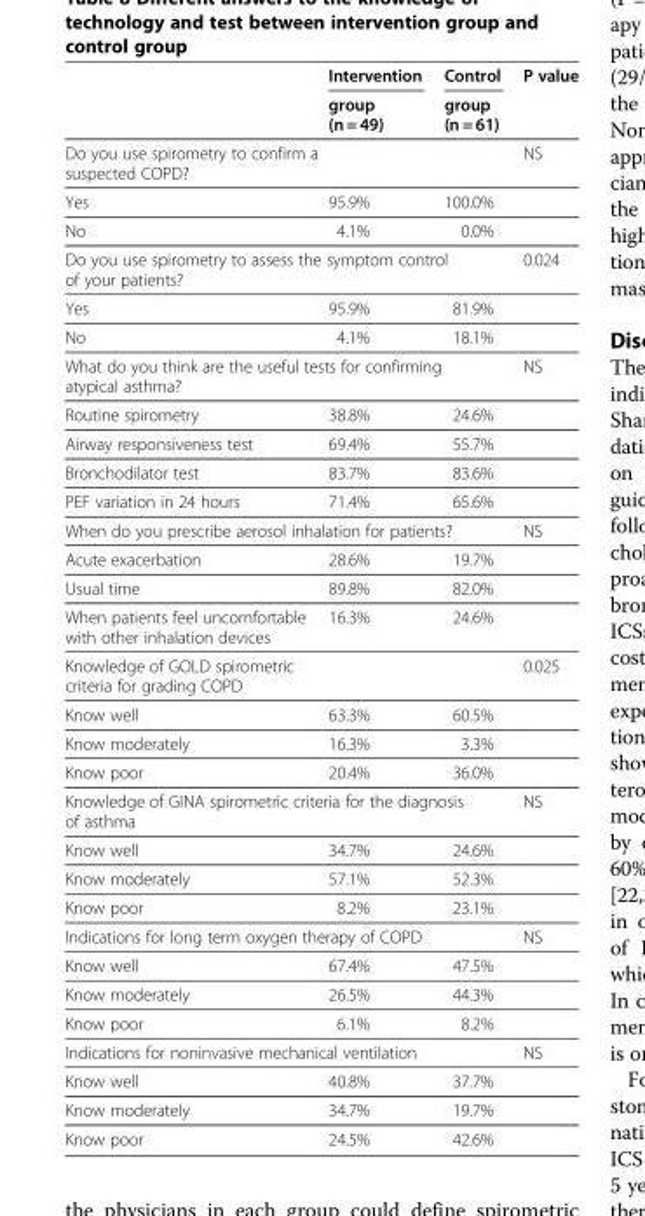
<table><thead><tr><td rowspan="2"></td><td rowspan="2">Intervention group (n = 49)</td><td rowspan="2">Control group (n = 61)</td><td rowspan="2">P value</td></tr><tr></tr></thead><tbody><tr><td colspan="3">Do you use spirometry to confirm a suspected COPD?</td><td>NS</td></tr><tr><td>Yes</td><td>95.9%</td><td>100.0%</td><td></td></tr><tr><td>No</td><td>4.1%</td><td>0.0%</td><td></td></tr><tr><td colspan="3">Do you use spirometry to assess the symptom control of your patients?</td><td>0.024</td></tr><tr><td>Yes</td><td>95.9%</td><td>81.9%</td><td></td></tr><tr><td>No</td><td>4.1%</td><td>18.1%</td><td></td></tr><tr><td colspan="3">What do you think are the useful tests for confirming atypical asthma?</td><td>NS</td></tr><tr><td>Routine spirometry</td><td>38.8%</td><td>24.6%</td><td></td></tr><tr><td>Airway responsiveness test</td><td>69.4%</td><td>55.7%</td><td></td></tr><tr><td>Bronchodilator test</td><td>83.7%</td><td>83.6%</td><td></td></tr><tr><td>PEF variation in 24 hours</td><td>71.4%</td><td>65.6%</td><td></td></tr><tr><td colspan="3">When do you prescribe aerosol inhalation for patients?</td><td>NS</td></tr><tr><td>Acute exacerbation</td><td>28.6%</td><td>19.7%</td><td></td></tr><tr><td>Usual time</td><td>89.8%</td><td>82.0%</td><td></td></tr><tr><td>When patients feel uncomfortable with other inhalation devices</td><td>16.3%</td><td>24.6%</td><td></td></tr><tr><td colspan="3">Knowledge of GOLD spirometric criteria for grading COPD</td><td>0.025</td></tr><tr><td>Know well</td><td>63.3%</td><td>60.5%</td><td></td></tr><tr><td>Know moderately</td><td>16.3%</td><td>3.3%</td><td></td></tr><tr><td>Know poor</td><td>20.4%</td><td>36.0%</td><td></td></tr><tr><td colspan="3">Knowledge of GINA spirometric criteria for the diagnosis of asthma</td><td>NS</td></tr><tr><td>Know well</td><td>34.7%</td><td>24.6%</td><td></td></tr><tr><td>Know moderately</td><td>57.1%</td><td>52.3%</td><td></td></tr><tr><td>Know poor</td><td>8.2%</td><td>23.1%</td><td></td></tr><tr><td colspan="3">Indications for long term oxygen therapy of COPD</td><td>NS</td></tr><tr><td>Know well</td><td>67.4%</td><td>47.5%</td><td></td></tr><tr><td>Know moderately</td><td>26.5%</td><td>44.3%</td><td></td></tr><tr><td>Know poor</td><td>6.1%</td><td>8.2%</td><td></td></tr><tr><td colspan="3">Indications for noninvasive mechanical ventilation</td><td>NS</td></tr><tr><td>Know well</td><td>40.8%</td><td>37.7%</td><td></td></tr><tr><td>Know moderately</td><td>34.7%</td><td>19.7%</td><td></td></tr><tr><td>Know poor</td><td>24.5%</td><td>42.6%</td><td></td></tr></tbody></table>